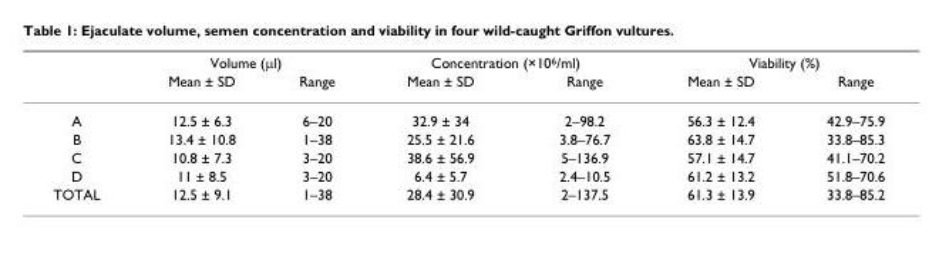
<table><thead><tr><td rowspan="2"></td><td colspan="2">Volume (μl)</td><td colspan="2">Concentration (×10<sup>6</sup>/ml)</td><td colspan="2">Viability (%)</td></tr><tr><td>Mean ± SD</td><td>Range</td><td>Mean ± SD</td><td>Range</td><td>Mean ± SD</td><td>Range</td></tr></thead><tbody><tr><td>A</td><td>12.5 ± 6.3</td><td>6–20</td><td>32.9 ± 34</td><td>2–98.2</td><td>56.3 ± 12.4</td><td>42.9–75.9</td></tr><tr><td>B</td><td>13.4 ± 10.8</td><td>1–38</td><td>25.5 ± 21.6</td><td>3.8–76.7</td><td>63.8 ± 14.7</td><td>33.8–85.3</td></tr><tr><td>C</td><td>10.8 ± 7.3</td><td>3–20</td><td>38.6 ± 56.9</td><td>5–136.9</td><td>57.1 ± 14.7</td><td>41.1–70.2</td></tr><tr><td>D</td><td>11 ± 8.5</td><td>3–20</td><td>6.4 ± 5.7</td><td>2.4–10.5</td><td>61.2 ± 13.2</td><td>51.8–70.6</td></tr><tr><td>TOTAL</td><td>12.5 ± 9.1</td><td>1–38</td><td>28.4 ± 30.9</td><td>2–137.5</td><td>61.3 ± 13.9</td><td>33.8–85.2</td></tr></tbody></table>